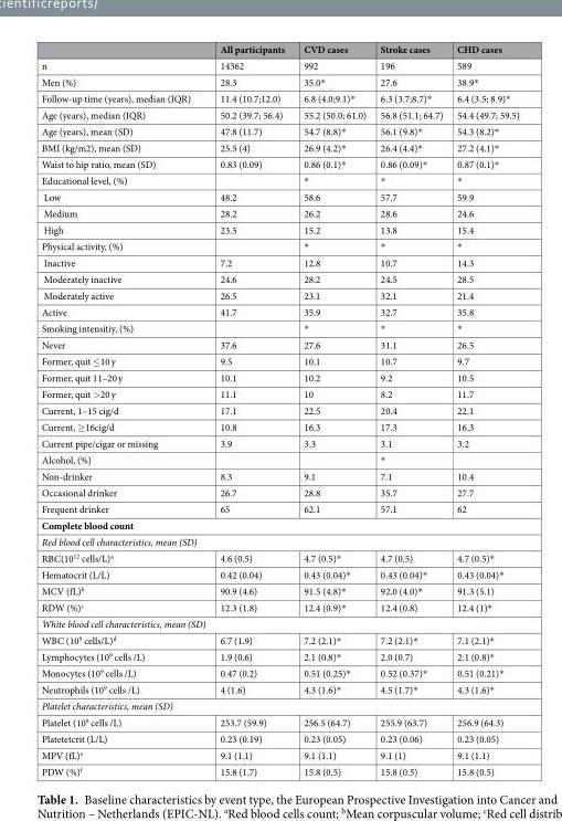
<table><thead><tr><td></td><td>All participants</td><td>CVD cases</td><td>Stroke cases</td><td>CHD cases</td></tr></thead><tbody><tr><td>n</td><td>14362</td><td>992</td><td>196</td><td>589</td></tr><tr><td>Men (%)</td><td>28.3</td><td>35.0*</td><td>27.6</td><td>38.9*</td></tr><tr><td>Follow-up time (years), median (IQR)</td><td>11.4 (10.7;12.0)</td><td>6.8 (4.0;9.1)*</td><td>6.3 (3.7;8.7)*</td><td>6.4 (3.5; 8.9)*</td></tr><tr><td>Age (years), median (IQR)</td><td>50.2 (39.7; 56.4)</td><td>55.2 (50.0; 61.0)</td><td>56.8 (51.1; 64.7)</td><td>54.4 (49.7; 59.5)</td></tr><tr><td>Age (years), mean (SD)</td><td>47.8 (11.7)</td><td>54.7 (8.8)*</td><td>56.1 (9.8)*</td><td>54.3 (8.2)*</td></tr><tr><td>BMI (kg/m2), mean (SD)</td><td>25.5 (4)</td><td>26.9 (4.2)*</td><td>26.4 (4.4)*</td><td>27.2 (4.1)*</td></tr><tr><td>Waist to hip ratio, mean (SD)</td><td>0.83 (0.09)</td><td>0.86 (0.1)*</td><td>0.86 (0.09)*</td><td>0.87 (0.1)*</td></tr><tr><td>Educational level, (%)</td><td></td><td>*</td><td>*</td><td>*</td></tr><tr><td>Low</td><td>48.2</td><td>58.6</td><td>57.7</td><td>59.9</td></tr><tr><td>Medium</td><td>28.2</td><td>26.2</td><td>28.6</td><td>24.6</td></tr><tr><td>High</td><td>23.5</td><td>15.2</td><td>13.8</td><td>15.4</td></tr><tr><td>Physical activity, (%)</td><td></td><td>*</td><td>*</td><td>*</td></tr><tr><td>Inactive</td><td>7.2</td><td>12.8</td><td>10.7</td><td>14.3</td></tr><tr><td>Moderately inactive</td><td>24.6</td><td>28.2</td><td>24.5</td><td>28.5</td></tr><tr><td>Moderately active</td><td>26.5</td><td>23.1</td><td>32.1</td><td>21.4</td></tr><tr><td>Active</td><td>41.7</td><td>35.9</td><td>32.7</td><td>35.8</td></tr><tr><td>Smoking intensitiy, (%)</td><td></td><td>*</td><td>*</td><td>*</td></tr><tr><td>Never</td><td>37.6</td><td>27.6</td><td>31.1</td><td>26.5</td></tr><tr><td>Former, quit ≤10 y</td><td>9.5</td><td>10.1</td><td>10.7</td><td>9.7</td></tr><tr><td>Former, quit 11–20 y</td><td>10.1</td><td>10.2</td><td>9.2</td><td>10.5</td></tr><tr><td>Former, quit &gt;20 y</td><td>11.1</td><td>10</td><td>8.2</td><td>11.7</td></tr><tr><td>Current, 1–15 cig/d</td><td>17.1</td><td>22.5</td><td>20.4</td><td>22.1</td></tr><tr><td>Current, ≥16cig/d</td><td>10.8</td><td>16.3</td><td>17.3</td><td>16.3</td></tr><tr><td>Current pipe/cigar or missing</td><td>3.9</td><td>3.3</td><td>3.1</td><td>3.2</td></tr><tr><td>Alcohol, (%)</td><td></td><td></td><td>*</td><td></td></tr><tr><td>Non-drinker</td><td>8.3</td><td>9.1</td><td>7.1</td><td>10.4</td></tr><tr><td>Occasional drinker</td><td>26.7</td><td>28.8</td><td>35.7</td><td>27.7</td></tr><tr><td>Frequent drinker</td><td>65</td><td>62.1</td><td>57.1</td><td>62</td></tr><tr><td colspan="5">Complete blood count</td></tr><tr><td colspan="5">Red blood cell characteristics, mean (SD)</td></tr><tr><td>RBC(10<sup>12</sup> cells/L)<sup>a</sup></td><td>4.6 (0.5)</td><td>4.7 (0.5)*</td><td>4.7 (0.5)</td><td>4.7 (0.5)*</td></tr><tr><td>Hematocrit (L/L)</td><td>0.42 (0.04)</td><td>0.43 (0.04)*</td><td>0.43 (0.04)*</td><td>0.43 (0.04)*</td></tr><tr><td>MCV (fL)<sup>b</sup></td><td>90.9 (4.6)</td><td>91.5 (4.8)*</td><td>92.0 (4.0)*</td><td>91.3 (5.1)</td></tr><tr><td>RDW (%)<sup>c</sup></td><td>12.3 (1.8)</td><td>12.4 (0.9)*</td><td>12.4 (0.8)</td><td>12.4 (1)*</td></tr><tr><td colspan="5">White blood cell characteristics, mean (SD)</td></tr><tr><td>WBC (10<sup>9</sup> cells/L)<sup>d</sup></td><td>6.7 (1.9)</td><td>7.2 (2.1)*</td><td>7.2 (2.1)*</td><td>7.1 (2.1)*</td></tr><tr><td>Lymphocytes (10<sup>9</sup> cells /L)</td><td>1.9 (0.6)</td><td>2.1 (0.8)*</td><td>2.0 (0.7)</td><td>2.1 (0.8)*</td></tr><tr><td>Monocytes (10<sup>9</sup> cells /L)</td><td>0.47 (0.2)</td><td>0.51 (0.25)*</td><td>0.52 (0.37)*</td><td>0.51 (0.21)*</td></tr><tr><td>Neutrophils (10<sup>9</sup> cells /L)</td><td>4 (1.6)</td><td>4.3 (1.6)*</td><td>4.5 (1.7)*</td><td>4.3 (1.6)*</td></tr><tr><td colspan="5">Platelet characteristics, mean (SD)</td></tr><tr><td>Platelet (10<sup>9</sup> cells /L)</td><td>253.7 (59.9)</td><td>256.5 (64.7)</td><td>255.9 (63.7)</td><td>256.9 (64.3)</td></tr><tr><td>Platetetcrit (L/L)</td><td>0.23 (0.19)</td><td>0.23 (0.05)</td><td>0.23 (0.06)</td><td>0.23 (0.05)</td></tr><tr><td>MPV (fL)<sup>e</sup></td><td>9.1 (1.1)</td><td>9.1 (1.1)</td><td>9.1 (1)</td><td>9.1 (1.1)</td></tr><tr><td>PDW (%)<sup>f</sup></td><td>15.8 (1.7)</td><td>15.8 (0.5)</td><td>15.8 (0.5)</td><td>15.8 (0.5)</td></tr></tbody></table>